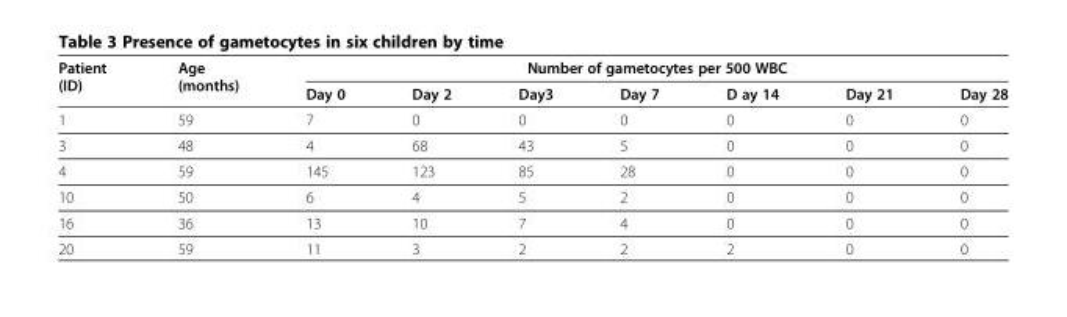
<table><thead><tr><td rowspan="2">Patient (ID)</td><td rowspan="2">Age (months)</td><td colspan="7">Number of gametocytes per 500 WBC</td></tr><tr><td>Day 0</td><td>Day 2</td><td>Day3</td><td>Day 7</td><td>D ay 14</td><td>Day 21</td><td>Day 28</td></tr></thead><tbody><tr><td>1</td><td>59</td><td>7</td><td>0</td><td>0</td><td>0</td><td>0</td><td>0</td><td>0</td></tr><tr><td>3</td><td>48</td><td>4</td><td>68</td><td>43</td><td>5</td><td>0</td><td>0</td><td>0</td></tr><tr><td>4</td><td>59</td><td>145</td><td>123</td><td>85</td><td>28</td><td>0</td><td>0</td><td>0</td></tr><tr><td>10</td><td>50</td><td>6</td><td>4</td><td>5</td><td>2</td><td>0</td><td>0</td><td>0</td></tr><tr><td>16</td><td>36</td><td>13</td><td>10</td><td>7</td><td>4</td><td>0</td><td>0</td><td>0</td></tr><tr><td>20</td><td>59</td><td>11</td><td>3</td><td>2</td><td>2</td><td>2</td><td>0</td><td>0</td></tr></tbody></table>